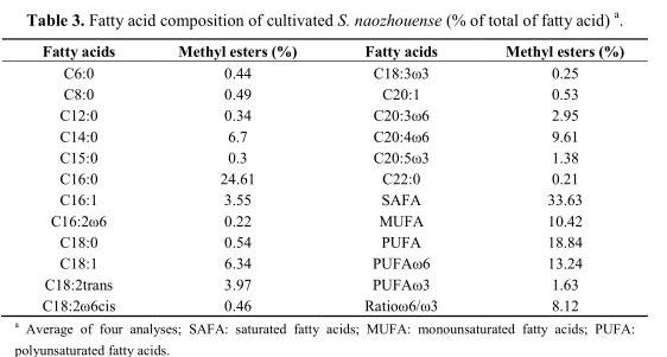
<table><thead><tr><td>Fatty acids</td><td>Methyl esters (%)</td><td>Fatty acids</td><td>Methyl esters (%)</td></tr></thead><tbody><tr><td>C6:0</td><td>0.44</td><td>C18:3ω3</td><td>0.25</td></tr><tr><td>C8:0</td><td>0.49</td><td>C20:1</td><td>0.53</td></tr><tr><td>C12:0</td><td>0.34</td><td>C20:3ω6</td><td>2.95</td></tr><tr><td>C14:0</td><td>6.7</td><td>C20:4ω6</td><td>9.61</td></tr><tr><td>C15:0</td><td>0.3</td><td>C20:5ω3</td><td>1.38</td></tr><tr><td>C16:0</td><td>24.61</td><td>C22:0</td><td>0.21</td></tr><tr><td>C16:1</td><td>3.55</td><td>SAFA</td><td>33.63</td></tr><tr><td>C16:2ω6</td><td>0.22</td><td>MUFA</td><td>10.42</td></tr><tr><td>C18:0</td><td>0.54</td><td>PUFA</td><td>18.84</td></tr><tr><td>C18:1</td><td>6.34</td><td>PUFAω6</td><td>13.24</td></tr><tr><td>C18:2trans</td><td>3.97</td><td>PUFAω3</td><td>1.63</td></tr><tr><td>C18:2ω6cis</td><td>0.46</td><td>Ratioω6/ω3</td><td>8.12</td></tr></tbody></table>